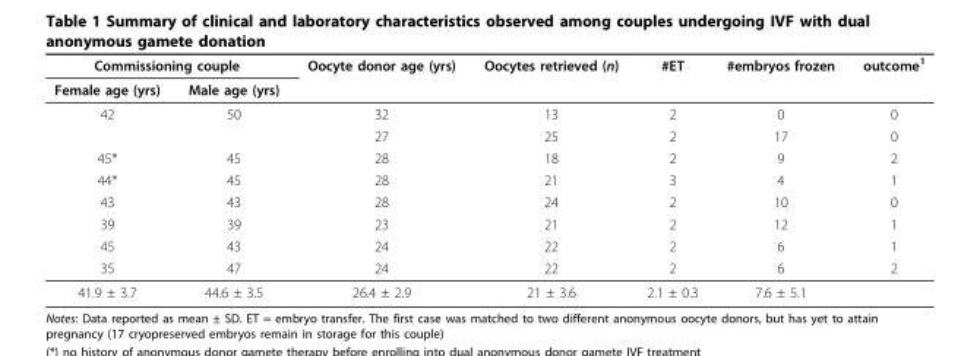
<table><thead><tr><td colspan="2">Commissioning couple</td><td rowspan="2">Oocyte donor age (yrs)</td><td rowspan="2">Oocytes retrieved (n)</td><td rowspan="2">#ET</td><td rowspan="2">#embryos frozen</td><td rowspan="2">outcome<sup>1</sup></td></tr><tr><td>Female age (yrs)</td><td>Male age (yrs)</td></tr></thead><tbody><tr><td rowspan="2">42</td><td>50</td><td>32</td><td>13</td><td>2</td><td>0</td><td>0</td></tr><tr><td></td><td>27</td><td>25</td><td>2</td><td>17</td><td>0</td></tr><tr><td>45*</td><td>45</td><td>28</td><td>18</td><td>2</td><td>9</td><td>2</td></tr><tr><td>44*</td><td>45</td><td>28</td><td>21</td><td>3</td><td>4</td><td>1</td></tr><tr><td>43</td><td>43</td><td>28</td><td>24</td><td>2</td><td>10</td><td>0</td></tr><tr><td>39</td><td>39</td><td>23</td><td>21</td><td>2</td><td>12</td><td>1</td></tr><tr><td>45</td><td>43</td><td>24</td><td>22</td><td>2</td><td>6</td><td>1</td></tr><tr><td>35</td><td>47</td><td>24</td><td>22</td><td>2</td><td>6</td><td>2</td></tr><tr><td>41.9 ± 3.7</td><td>44.6 ± 3.5</td><td>26.4 ± 2.9</td><td>21 ± 3.6</td><td>2.1 ± 0.3</td><td>7.6 ± 5.1</td><td></td></tr></tbody></table>